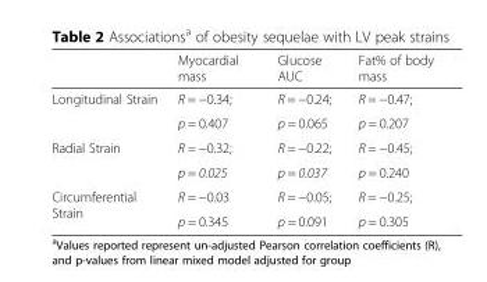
<table><thead><tr><td></td><td>Myocardial mass</td><td>Glucose AUC</td><td>Fat% of body mass</td></tr></thead><tbody><tr><td rowspan="2">Longitudinal Strain</td><td>R = −0.34;</td><td>R = −0.24;</td><td>R = −0.47;</td></tr><tr><td>p = 0.407</td><td>p = 0.065</td><td>p = 0.207</td></tr><tr><td rowspan="2">Radial Strain</td><td>R = −0.32;</td><td>R = −0.22;</td><td>R = −0.45;</td></tr><tr><td>p = 0.025</td><td>p = 0.037</td><td>p = 0.240</td></tr><tr><td rowspan="2">Circumferential Strain</td><td>R = −0.03</td><td>R = −0.05;</td><td>R = −0.25;</td></tr><tr><td>p = 0.345</td><td>p = 0.091</td><td>p = 0.305</td></tr></tbody></table>